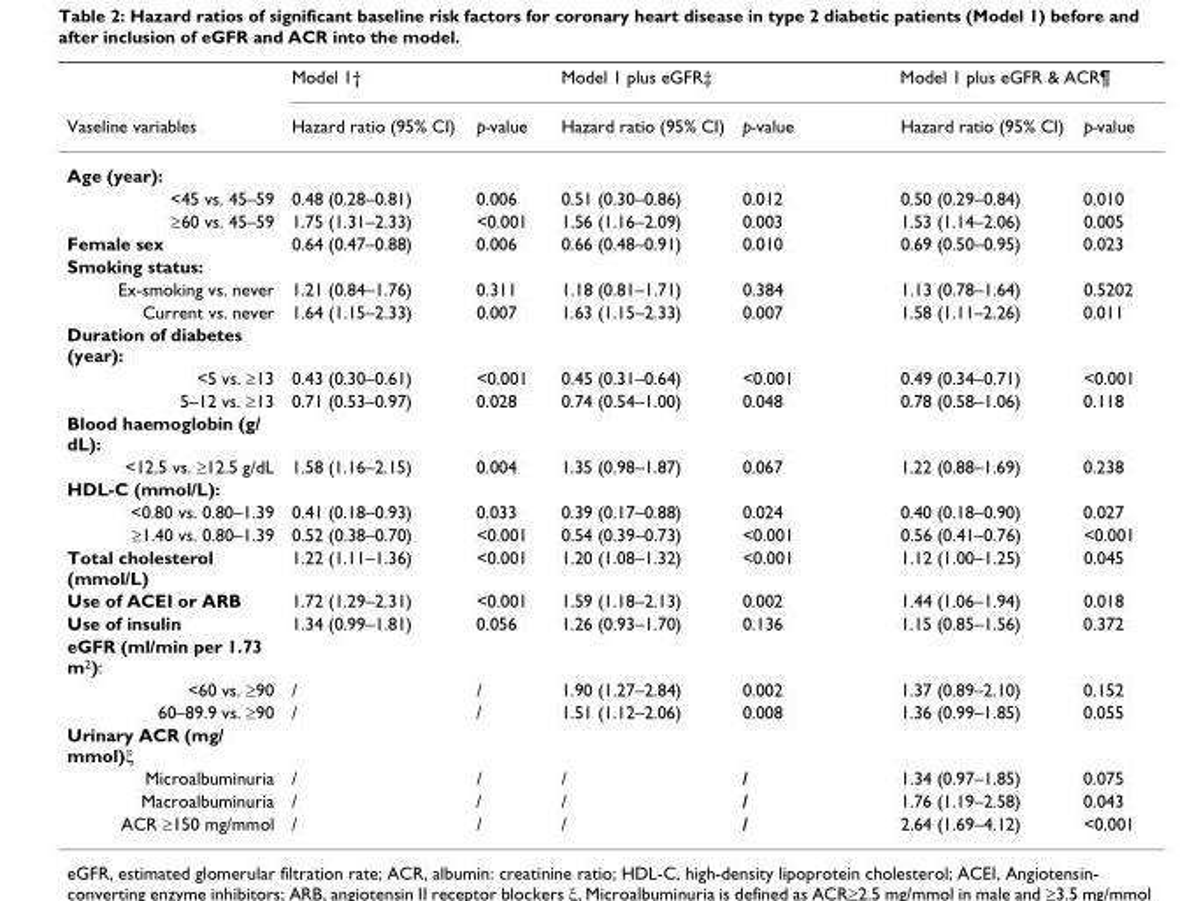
<table><thead><tr><td rowspan="2">Vaseline variables</td><td colspan="2">Model 1†</td><td colspan="2">Model 1 plus eGFR‡</td><td colspan="2">Model 1 plus eGFR &amp; ACR¶</td></tr><tr><td>Hazard ratio (95% CI)</td><td>p-value</td><td>Hazard ratio (95% CI)</td><td>p-value</td><td>Hazard ratio (95% CI)</td><td>p-value</td></tr></thead><tbody><tr><td colspan="7">Age (year):</td></tr><tr><td>&lt;45 vs. 45–59</td><td>0.48 (0.28–0.81)</td><td>0.006</td><td>0.51 (0.30–0.86)</td><td>0.012</td><td>0.50 (0.29–0.84)</td><td>0.010</td></tr><tr><td>≥60 vs. 45–59</td><td>1.75 (1.31–2.33)</td><td>&lt;0.001</td><td>1.56 (1.16–2.09)</td><td>0.003</td><td>1.53 (1.14–2.06)</td><td>0.005</td></tr><tr><td>Female sex</td><td>0.64 (0.47–0.88)</td><td>0.006</td><td>0.66 (0.48–0.91)</td><td>0.010</td><td>0.69 (0.50–0.95)</td><td>0.023</td></tr><tr><td colspan="7">Smoking status:</td></tr><tr><td>Ex-smoking vs. never</td><td>1.21 (0.84–1.76)</td><td>0.311</td><td>1.18 (0.81–1.71)</td><td>0.384</td><td>1.13 (0.78–1.64)</td><td>0.5202</td></tr><tr><td>Current vs. never</td><td>1.64 (1.15–2.33)</td><td>0.007</td><td>1.63 (1.15–2.33)</td><td>0.007</td><td>1.58 (1.11–2.26)</td><td>0.011</td></tr><tr><td colspan="7">Duration of diabetes (year):</td></tr><tr><td>&lt;5 vs. ≥13</td><td>0.43 (0.30–0.61)</td><td>&lt;0.001</td><td>0.45 (0.31–0.64)</td><td>&lt;0.001</td><td>0.49 (0.34–0.71)</td><td>&lt;0.001</td></tr><tr><td>5–12 vs. ≥13</td><td>0.71 (0.53–0.97)</td><td>0.028</td><td>0.74 (0.54–1.00)</td><td>0.048</td><td>0.78 (0.58–1.06)</td><td>0.118</td></tr><tr><td colspan="7">Blood haemoglobin (g/ dL):</td></tr><tr><td>&lt;12.5 vs. ≥12.5 g/dL</td><td>1.58 (1.16–2.15)</td><td>0.004</td><td>1.35 (0.98–1.87)</td><td>0.067</td><td>1.22 (0.88–1.69)</td><td>0.238</td></tr><tr><td colspan="7">HDL-C (mmol/L):</td></tr><tr><td>&lt;0.80 vs. 0.80–1.39</td><td>0.41 (0.18–0.93)</td><td>0.033</td><td>0.39 (0.17–0.88)</td><td>0.024</td><td>0.40 (0.18–0.90)</td><td>0.027</td></tr><tr><td>≥1.40 vs. 0.80–1.39</td><td>0.52 (0.38–0.70)</td><td>&lt;0.001</td><td>0.54 (0.39–0.73)</td><td>&lt;0.001</td><td>0.56 (0.41–0.76)</td><td>&lt;0.001</td></tr><tr><td>Total cholesterol (mmol/L)</td><td>1.22 (1.11–1.36)</td><td>&lt;0.001</td><td>1.20 (1.08–1.32)</td><td>&lt;0.001</td><td>1.12 (1.00–1.25)</td><td>0.045</td></tr><tr><td>Use of ACEI or ARB</td><td>1.72 (1.29–2.31)</td><td>&lt;0.001</td><td>1.59 (1.18–2.13)</td><td>0.002</td><td>1.44 (1.06–1.94)</td><td>0.018</td></tr><tr><td>Use of insulin</td><td>1.34 (0.99–1.81)</td><td>0.056</td><td>1.26 (0.93–1.70)</td><td>0.136</td><td>1.15 (0.85–1.56)</td><td>0.372</td></tr><tr><td colspan="7">eGFR (ml/min per 1.73 m<sup>2</sup>):</td></tr><tr><td>&lt;60 vs. ≥90</td><td>/</td><td>/</td><td>1.90 (1.27–2.84)</td><td>0.002</td><td>1.37 (0.89–2.10)</td><td>0.152</td></tr><tr><td>60–89.9 vs. ≥90</td><td>/</td><td>/</td><td>1.51 (1.12–2.06)</td><td>0.008</td><td>1.36 (0.99–1.85)</td><td>0.055</td></tr><tr><td colspan="7">Urinary ACR (mg/ mmol)ξ</td></tr><tr><td>Microalbuminuria</td><td>/</td><td>/</td><td>/</td><td>/</td><td>1.34 (0.97–1.85)</td><td>0.075</td></tr><tr><td>Macroalbuminuria</td><td>/</td><td>/</td><td>/</td><td>/</td><td>1.76 (1.19–2.58)</td><td>0.043</td></tr><tr><td>ACR ≥150 mg/mmol</td><td>/</td><td>/</td><td>/</td><td>/</td><td>2.64 (1.69–4.12)</td><td>&lt;0.001</td></tr></tbody></table>